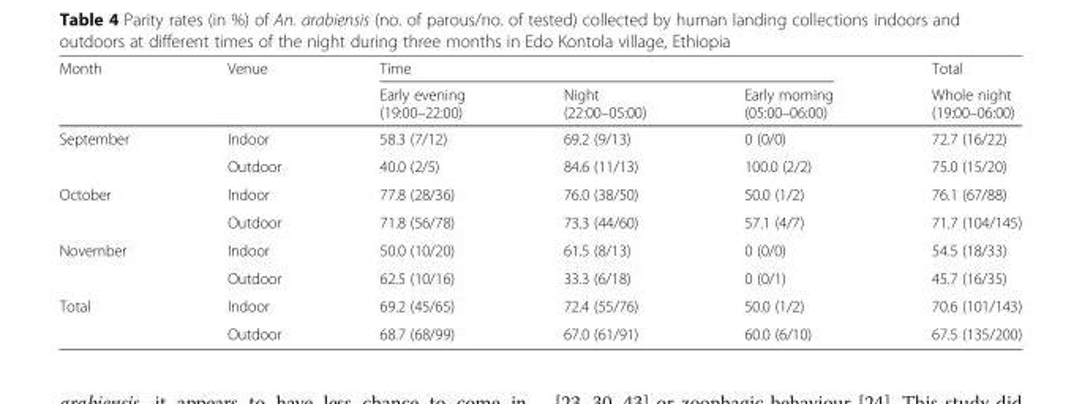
<table><thead><tr><td rowspan="2">Month</td><td rowspan="2">Venue</td><td colspan="3">Time</td><td rowspan="2">Total Whole night (19:00–06:00)</td></tr><tr><td>Early evening (19:00–22:00)</td><td>Night (22:00–05:00)</td><td>Early morning (05:00–06:00)</td></tr></thead><tbody><tr><td rowspan="2">September</td><td>Indoor</td><td>58.3 (7/12)</td><td>69.2 (9/13)</td><td>0 (0/0)</td><td>72.7 (16/22)</td></tr><tr><td>Outdoor</td><td>40.0 (2/5)</td><td>84.6 (11/13)</td><td>100.0 (2/2)</td><td>75.0 (15/20)</td></tr><tr><td rowspan="2">October</td><td>Indoor</td><td>77.8 (28/36)</td><td>76.0 (38/50)</td><td>50.0 (1/2)</td><td>76.1 (67/88)</td></tr><tr><td>Outdoor</td><td>71.8 (56/78)</td><td>73.3 (44/60)</td><td>57.1 (4/7)</td><td>71.7 (104/145)</td></tr><tr><td rowspan="2">November</td><td>Indoor</td><td>50.0 (10/20)</td><td>61.5 (8/13)</td><td>0 (0/0)</td><td>54.5 (18/33)</td></tr><tr><td>Outdoor</td><td>62.5 (10/16)</td><td>33.3 (6/18)</td><td>0 (0/1)</td><td>45.7 (16/35)</td></tr><tr><td rowspan="2">Total</td><td>Indoor</td><td>69.2 (45/65)</td><td>72.4 (55/76)</td><td>50.0 (1/2)</td><td>70.6 (101/143)</td></tr><tr><td>Outdoor</td><td>68.7 (68/99)</td><td>67.0 (61/91)</td><td>60.0 (6/10)</td><td>67.5 (135/200)</td></tr></tbody></table>